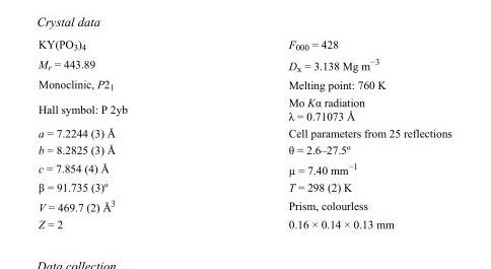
<table><tbody><tr><td>KY(PO<sub>3</sub>)<sub>4</sub></td><td>F<sub>000</sub> = 428</td></tr><tr><td>M<sub>r</sub> = 443.89</td><td>D<sub>x</sub> = 3.138 Mg m<sup>−3</sup></td></tr><tr><td>Monoclinic, P2<sub>1</sub></td><td>Melting point: 760 K</td></tr><tr><td>Hall symbol: P 2yb</td><td>Mo Kα radiation λ = 0.71073 Å</td></tr><tr><td>a = 7.2244 (3) Å</td><td>Cell parameters from 25 reflections</td></tr><tr><td>b = 8.2825 (3) Å</td><td>θ = 2.6–27.5º</td></tr><tr><td>c = 7.854 (4) Å</td><td>µ = 7.40 mm<sup>−1</sup></td></tr><tr><td>β = 91.735 (3)º</td><td>T = 298 (2) K</td></tr><tr><td>V = 469.7 (2) Å<sup>3</sup></td><td>Prism, colourless</td></tr><tr><td>Z = 2</td><td>0.16 × 0.14 × 0.13 mm</td></tr></tbody></table>